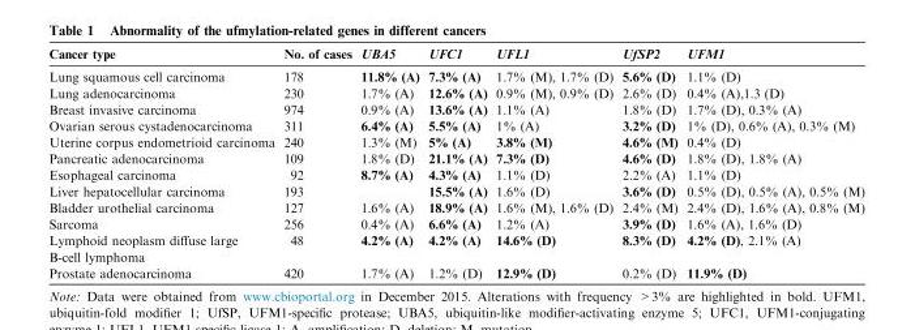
<table><thead><tr><td>Cancer type</td><td>No. of cases</td><td>UBA5</td><td>UFC1</td><td>UFL1</td><td>UfSP2</td><td>UFM1</td></tr></thead><tbody><tr><td>Lung squamous cell carcinoma</td><td>178</td><td>11.8% (A)</td><td>7.3% (A)</td><td>1.7% (M), 1.7% (D)</td><td>5.6% (D)</td><td>1.1% (D)</td></tr><tr><td>Lung adenocarcinoma</td><td>230</td><td>1.7% (A)</td><td>12.6% (A)</td><td>0.9% (M), 0.9% (D)</td><td>2.6% (D)</td><td>0.4% (A),1.3 (D)</td></tr><tr><td>Breast invasive carcinoma</td><td>974</td><td>0.9% (A)</td><td>13.6% (A)</td><td>1.1% (A)</td><td>1.8% (D)</td><td>1.7% (D), 0.3% (A)</td></tr><tr><td>Ovarian serous cystadenocarcinoma</td><td>311</td><td>6.4% (A)</td><td>5.5% (A)</td><td>1% (A)</td><td>3.2% (D)</td><td>1% (D), 0.6% (A), 0.3% (M)</td></tr><tr><td>Uterine corpus endometrioid carcinoma</td><td>240</td><td>1.3% (M)</td><td>5% (A)</td><td>3.8% (M)</td><td>4.6% (M)</td><td>0.4% (D)</td></tr><tr><td>Pancreatic adenocarcinoma</td><td>109</td><td>1.8% (D)</td><td>21.1% (A)</td><td>7.3% (D)</td><td>4.6% (D)</td><td>1.8% (D), 1.8% (A)</td></tr><tr><td>Esophageal carcinoma</td><td>92</td><td>8.7% (A)</td><td>4.3% (A)</td><td>1.1% (D)</td><td>2.2% (A)</td><td>1.1% (D)</td></tr><tr><td>Liver hepatocellular carcinoma</td><td>193</td><td></td><td>15.5% (A)</td><td>1.6% (D)</td><td>3.6% (D)</td><td>0.5% (D), 0.5% (A), 0.5% (M)</td></tr><tr><td>Bladder urothelial carcinoma</td><td>127</td><td>1.6% (A)</td><td>18.9% (A)</td><td>1.6% (M), 1.6% (D)</td><td>2.4% (M)</td><td>2.4% (D), 1.6% (A), 0.8% (M)</td></tr><tr><td>Sarcoma</td><td>256</td><td>0.4% (A)</td><td>6.6% (A)</td><td>1.2% (A)</td><td>3.9% (D)</td><td>1.6% (A), 1.6% (D)</td></tr><tr><td>Lymphoid neoplasm diffuse large B-cell lymphoma</td><td>48</td><td>4.2% (A)</td><td>4.2% (A)</td><td>14.6% (D)</td><td>8.3% (D)</td><td>4.2% (D), 2.1% (A)</td></tr><tr><td>Prostate adenocarcinoma</td><td>420</td><td>1.7% (A)</td><td>1.2% (D)</td><td>12.9% (D)</td><td>0.2% (D)</td><td>11.9% (D)</td></tr></tbody></table>